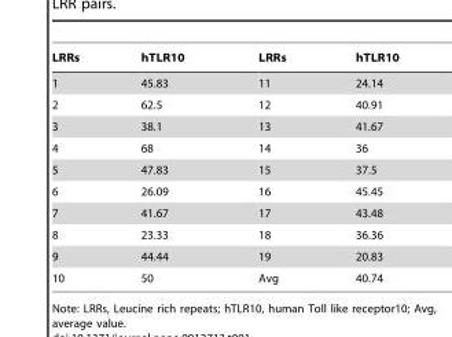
<table><thead><tr><td>LRRs</td><td>hTLR10</td><td>LRRs</td><td>hTLR10</td></tr></thead><tbody><tr><td>1</td><td>45.83</td><td>11</td><td>24.14</td></tr><tr><td>2</td><td>62.5</td><td>12</td><td>40.91</td></tr><tr><td>3</td><td>38.1</td><td>13</td><td>41.67</td></tr><tr><td>4</td><td>68</td><td>14</td><td>36</td></tr><tr><td>5</td><td>47.83</td><td>15</td><td>37.5</td></tr><tr><td>6</td><td>26.09</td><td>16</td><td>45.45</td></tr><tr><td>7</td><td>41.67</td><td>17</td><td>43.48</td></tr><tr><td>8</td><td>23.33</td><td>18</td><td>36.36</td></tr><tr><td>9</td><td>44.44</td><td>19</td><td>20.83</td></tr><tr><td>10</td><td>50</td><td>Avg</td><td>40.74</td></tr></tbody></table>